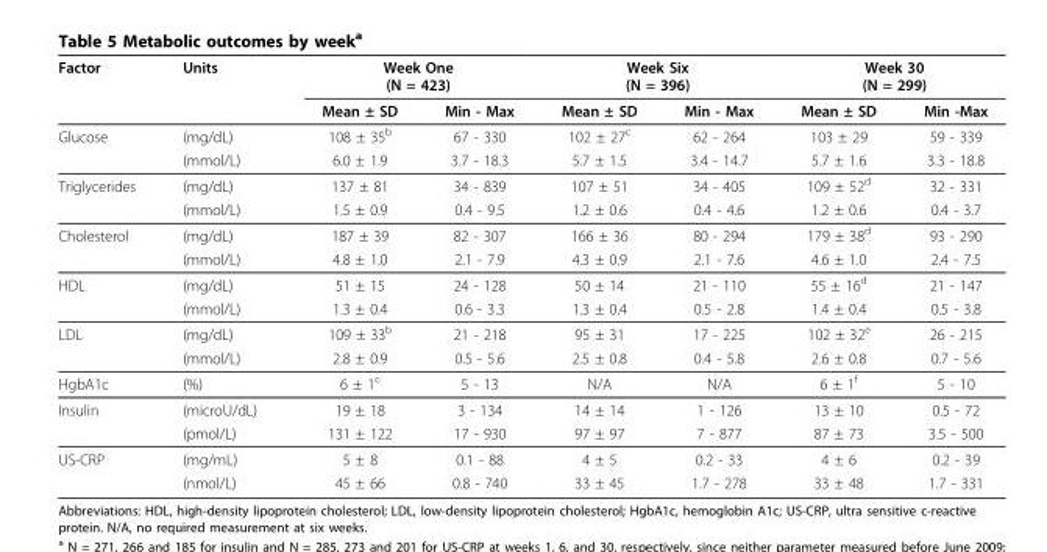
<table><thead><tr><td rowspan="2">Factor</td><td rowspan="2">Units</td><td colspan="2">Week One (N = 423)</td><td colspan="2">Week Six (N = 396)</td><td colspan="2">Week 30 (N = 299)</td></tr><tr><td>Mean ± SD</td><td>Min - Max</td><td>Mean ± SD</td><td>Min - Max</td><td>Mean ± SD</td><td>Min -Max</td></tr></thead><tbody><tr><td rowspan="2">Glucose</td><td>(mg/dL)</td><td>108 ± 35<sup>b</sup></td><td>67 - 330</td><td>102 ± 27<sup>c</sup></td><td>62 - 264</td><td>103 ± 29</td><td>59 - 339</td></tr><tr><td>(mmol/L)</td><td>6.0 ± 1.9</td><td>3.7 - 18.3</td><td>5.7 ± 1.5</td><td>3.4 - 14.7</td><td>5.7 ± 1.6</td><td>3.3 - 18.8</td></tr><tr><td rowspan="2">Triglycerides</td><td>(mg/dL)</td><td>137 ± 81</td><td>34 - 839</td><td>107 ± 51</td><td>34 - 405</td><td>109 ± 52<sup>d</sup></td><td>32 - 331</td></tr><tr><td>(mmol/L)</td><td>1.5 ± 0.9</td><td>0.4 - 9.5</td><td>1.2 ± 0.6</td><td>0.4 - 4.6</td><td>1.2 ± 0.6</td><td>0.4 - 3.7</td></tr><tr><td rowspan="2">Cholesterol</td><td>(mg/dL)</td><td>187 ± 39</td><td>82 - 307</td><td>166 ± 36</td><td>80 - 294</td><td>179 ± 38<sup>d</sup></td><td>93 - 290</td></tr><tr><td>(mmol/L)</td><td>4.8 ± 1.0</td><td>2.1 - 7.9</td><td>4.3 ± 0.9</td><td>2.1 - 7.6</td><td>4.6 ± 1.0</td><td>2.4 - 7.5</td></tr><tr><td rowspan="2">HDL</td><td>(mg/dL)</td><td>51 ± 15</td><td>24 - 128</td><td>50 ± 14</td><td>21 - 110</td><td>55 ± 16<sup>d</sup></td><td>21 - 147</td></tr><tr><td>(mmol/L)</td><td>1.3 ± 0.4</td><td>0.6 - 3.3</td><td>1.3 ± 0.4</td><td>0.5 - 2.8</td><td>1.4 ± 0.4</td><td>0.5 - 3.8</td></tr><tr><td rowspan="2">LDL</td><td>(mg/dL)</td><td>109 ± 33<sup>b</sup></td><td>21 - 218</td><td>95 ± 31</td><td>17 - 225</td><td>102 ± 32<sup>e</sup></td><td>26 - 215</td></tr><tr><td>(mmol/L)</td><td>2.8 ± 0.9</td><td>0.5 - 5.6</td><td>2.5 ± 0.8</td><td>0.4 - 5.8</td><td>2.6 ± 0.8</td><td>0.7 - 5.6</td></tr><tr><td>HgbA1c</td><td>(%)</td><td>6 ± 1<sup>c</sup></td><td>5 - 13</td><td>N/A</td><td>N/A</td><td>6 ± 1<sup>f</sup></td><td>5 - 10</td></tr><tr><td rowspan="2">Insulin</td><td>(microU/dL)</td><td>19 ± 18</td><td>3 - 134</td><td>14 ± 14</td><td>1 - 126</td><td>13 ± 10</td><td>0.5 - 72</td></tr><tr><td>(pmol/L)</td><td>131 ± 122</td><td>17 - 930</td><td>97 ± 97</td><td>7 - 877</td><td>87 ± 73</td><td>3.5 - 500</td></tr><tr><td rowspan="2">US-CRP</td><td>(mg/mL)</td><td>5 ± 8</td><td>0.1 - 88</td><td>4 ± 5</td><td>0.2 - 33</td><td>4 ± 6</td><td>0.2 - 39</td></tr><tr><td>(nmol/L)</td><td>45 ± 66</td><td>0.8 - 740</td><td>33 ± 45</td><td>1.7 - 278</td><td>33 ± 48</td><td>1.7 - 331</td></tr></tbody></table>